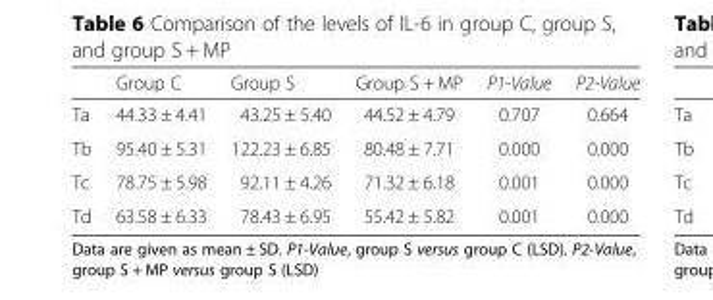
<table><thead><tr><td></td><td>Group C</td><td>Group S</td><td>Group S + MP</td><td>P1-Value</td><td>P2-Value</td></tr></thead><tbody><tr><td>Ta</td><td>44.33 ± 4.41</td><td>43.25 ± 5.40</td><td>44.52 ± 4.79</td><td>0.707</td><td>0.664</td></tr><tr><td>Tb</td><td>95.40 ± 5.31</td><td>122.23 ± 6.85</td><td>80.48 ± 7.71</td><td>0.000</td><td>0.000</td></tr><tr><td>Tc</td><td>78.75 ± 5.98</td><td>92.11 ± 4.26</td><td>71.32 ± 6.18</td><td>0.001</td><td>0.000</td></tr><tr><td>Td</td><td>63.58 ± 6.33</td><td>78.43 ± 6.95</td><td>55.42 ± 5.82</td><td>0.001</td><td>0.000</td></tr></tbody></table>